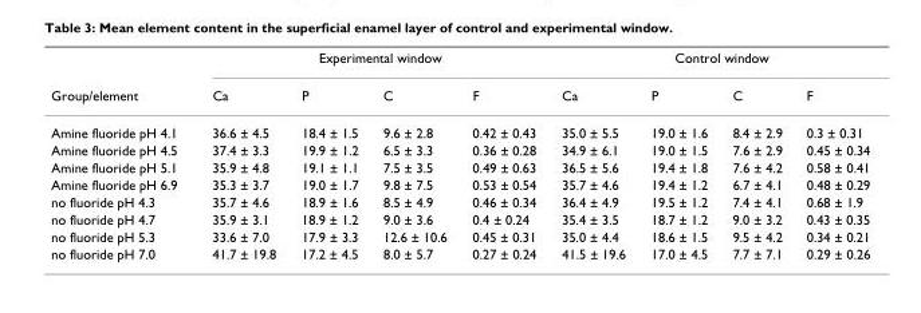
<table><thead><tr><td rowspan="2">Group/element</td><td colspan="4">Experimental window</td><td colspan="4">Control window</td></tr><tr><td>Ca</td><td>P</td><td>C</td><td>F</td><td>Ca</td><td>P</td><td>C</td><td>F</td></tr></thead><tbody><tr><td>Amine fluoride pH 4.1</td><td>36.6 ± 4.5</td><td>18.4 ± 1.5</td><td>9.6 ± 2.8</td><td>0.42 ± 0.43</td><td>35.0 ± 5.5</td><td>19.0 ± 1.6</td><td>8.4 ± 2.9</td><td>0.3 ± 0.31</td></tr><tr><td>Amine fluoride pH 4.5</td><td>37.4 ± 3.3</td><td>19.9 ± 1.2</td><td>6.5 ± 3.3</td><td>0.36 ± 0.28</td><td>34.9 ± 6.1</td><td>19.0 ± 1.5</td><td>7.6 ± 2.9</td><td>0.45 ± 0.34</td></tr><tr><td>Amine fluoride pH 5.1</td><td>35.9 ± 4.8</td><td>19.1 ± 1.1</td><td>7.5 ± 3.5</td><td>0.49 ± 0.63</td><td>36.5 ± 5.6</td><td>19.4 ± 1.8</td><td>7.6 ± 4.2</td><td>0.58 ± 0.41</td></tr><tr><td>Amine fluoride pH 6.9</td><td>35.3 ± 3.7</td><td>19.0 ± 1.7</td><td>9.8 ± 7.5</td><td>0.53 ± 0.54</td><td>35.7 ± 4.6</td><td>19.4 ± 1.2</td><td>6.7 ± 4.1</td><td>0.48 ± 0.29</td></tr><tr><td>no fluoride pH 4.3</td><td>35.7 ± 4.6</td><td>18.9 ± 1.6</td><td>8.5 ± 4.9</td><td>0.46 ± 0.34</td><td>36.4 ± 4.9</td><td>19.5 ± 1.2</td><td>7.4 ± 4.1</td><td>0.68 ± 1.9</td></tr><tr><td>no fluoride pH 4.7</td><td>35.9 ± 3.1</td><td>18.9 ± 1.2</td><td>9.0 ± 3.6</td><td>0.4 ± 0.24</td><td>35.4 ± 3.5</td><td>18.7 ± 1.2</td><td>9.0 ± 3.2</td><td>0.43 ± 0.35</td></tr><tr><td>no fluoride pH 5.3</td><td>33.6 ± 7.0</td><td>17.9 ± 3.3</td><td>12.6 ± 10.6</td><td>0.45 ± 0.31</td><td>35.0 ± 4.4</td><td>18.6 ± 1.5</td><td>9.5 ± 4.2</td><td>0.34 ± 0.21</td></tr><tr><td>no fluoride pH 7.0</td><td>41.7 ± 19.8</td><td>17.2 ± 4.5</td><td>8.0 ± 5.7</td><td>0.27 ± 0.24</td><td>41.5 ± 19.6</td><td>17.0 ± 4.5</td><td>7.7 ± 7.1</td><td>0.29 ± 0.26</td></tr></tbody></table>